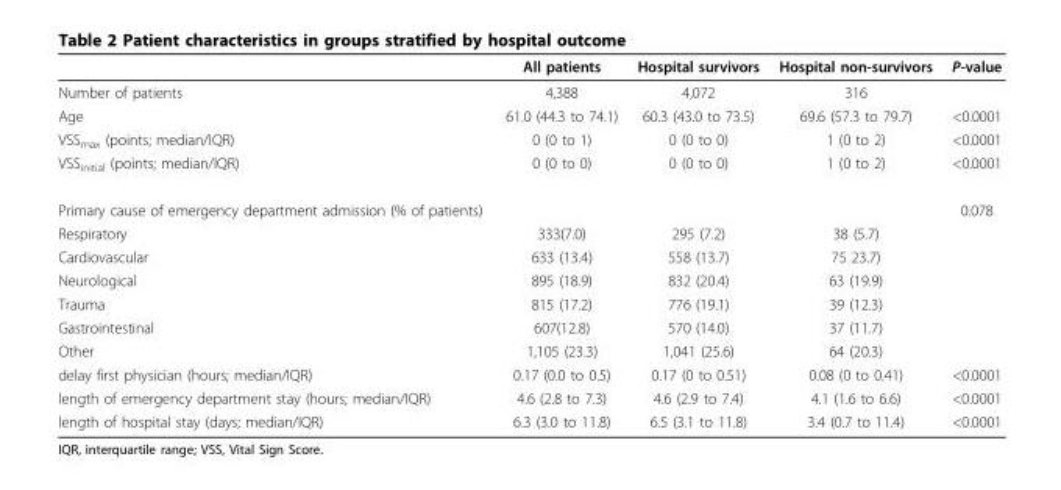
<table><thead><tr><td></td><td>All patients</td><td>Hospital survivors</td><td>Hospital non-survivors</td><td>P-value</td></tr></thead><tbody><tr><td>Number of patients</td><td>4,388</td><td>4,072</td><td>316</td><td></td></tr><tr><td>Age</td><td>61.0 (44.3 to 74.1)</td><td>60.3 (43.0 to 73.5)</td><td>69.6 (57.3 to 79.7)</td><td>&lt;0.0001</td></tr><tr><td>VSS<sub>max</sub> (points; median/IQR)</td><td>0 (0 to 1)</td><td>0 (0 to 0)</td><td>1 (0 to 2)</td><td>&lt;0.0001</td></tr><tr><td>VSS<sub>initial</sub> (points; median/IQR)</td><td>0 (0 to 0)</td><td>0 (0 to 0)</td><td>1 (0 to 2)</td><td>&lt;0.0001</td></tr><tr><td>Primary cause of emergency department admission (% of patients)</td><td></td><td></td><td></td><td>0.078</td></tr><tr><td>Respiratory</td><td>333(7.0)</td><td>295 (7.2)</td><td>38 (5.7)</td><td></td></tr><tr><td>Cardiovascular</td><td>633 (13.4)</td><td>558 (13.7)</td><td>75 23.7)</td><td></td></tr><tr><td>Neurological</td><td>895 (18.9)</td><td>832 (20.4)</td><td>63 (19.9)</td><td></td></tr><tr><td>Trauma</td><td>815 (17.2)</td><td>776 (19.1)</td><td>39 (12.3)</td><td></td></tr><tr><td>Gastrointestinal</td><td>607(12.8)</td><td>570 (14.0)</td><td>37 (11.7)</td><td></td></tr><tr><td>Other</td><td>1,105 (23.3)</td><td>1,041 (25.6)</td><td>64 (20.3)</td><td></td></tr><tr><td>delay first physician (hours; median/IQR)</td><td>0.17 (0.0 to 0.5)</td><td>0.17 (0 to 0.51)</td><td>0.08 (0 to 0.41)</td><td>&lt;0.0001</td></tr><tr><td>length of emergency department stay (hours; median/IQR)</td><td>4.6 (2.8 to 7.3)</td><td>4.6 (2.9 to 7.4)</td><td>4.1 (1.6 to 6.6)</td><td>&lt;0.0001</td></tr><tr><td>length of hospital stay (days; median/IQR)</td><td>6.3 (3.0 to 11.8)</td><td>6.5 (3.1 to 11.8)</td><td>3.4 (0.7 to 11.4)</td><td>&lt;0.0001</td></tr></tbody></table>